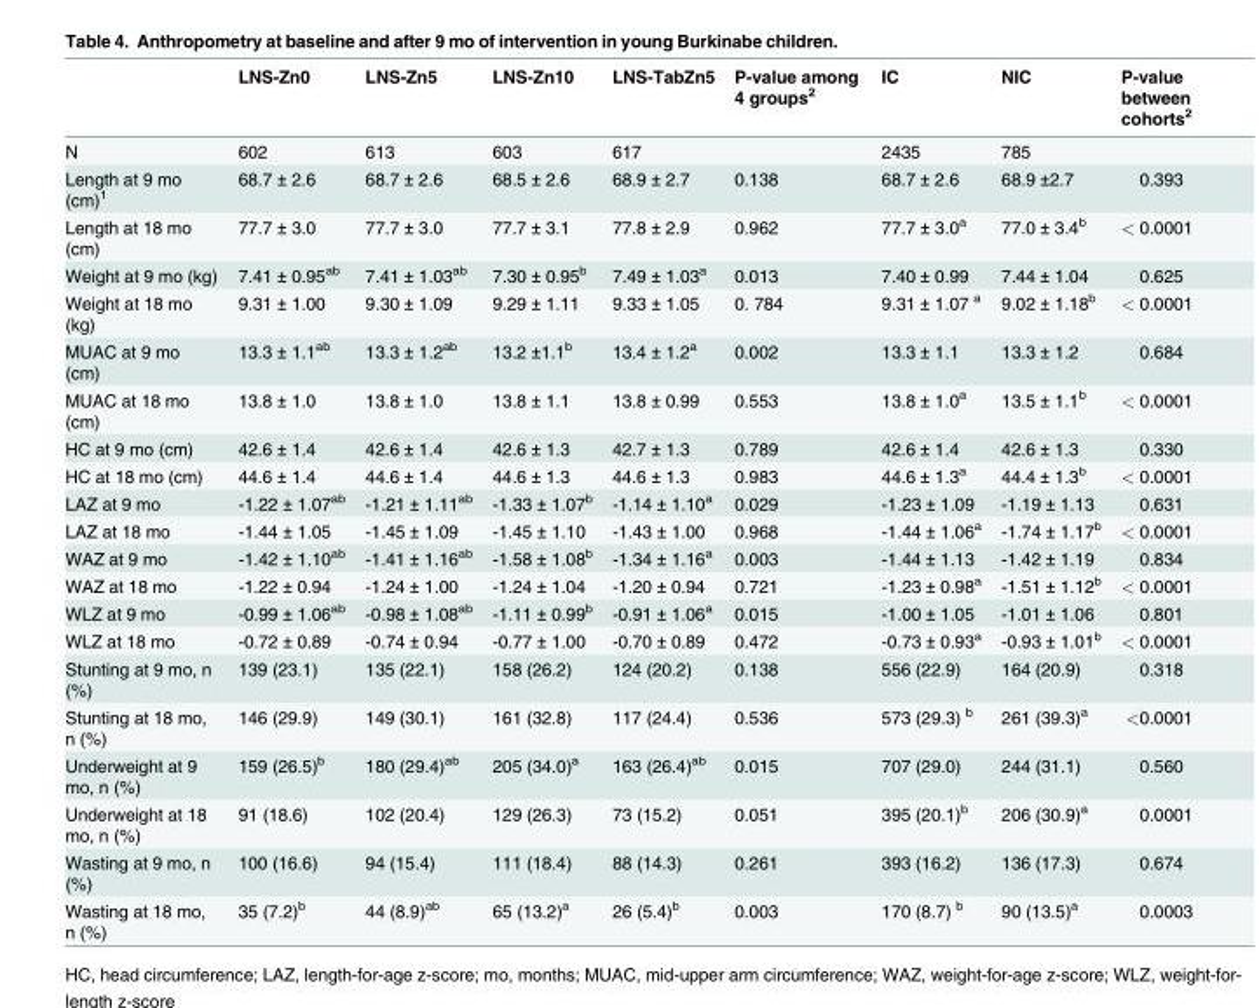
<table><thead><tr><td></td><td>LNS-Zn0</td><td>LNS-Zn5</td><td>LNS-Zn10</td><td>LNS-TabZn5</td><td>P-value among 4 groups<sup>2</sup></td><td>IC</td><td>NIC</td><td>P-value between cohorts<sup>2</sup></td></tr></thead><tbody><tr><td>N</td><td>602</td><td>613</td><td>603</td><td>617</td><td></td><td>2435</td><td>785</td><td></td></tr><tr><td>Length at 9 mo (cm)<sup>1</sup></td><td>68.7 ± 2.6</td><td>68.7 ± 2.6</td><td>68.5 ± 2.6</td><td>68.9 ± 2.7</td><td>0.138</td><td>68.7 ± 2.6</td><td>68.9 ±2.7</td><td>0.393</td></tr><tr><td>Length at 18 mo (cm)</td><td>77.7 ± 3.0</td><td>77.7 ± 3.0</td><td>77.7 ± 3.1</td><td>77.8 ± 2.9</td><td>0.962</td><td>77.7 ± 3.0<sup>a</sup></td><td>77.0 ± 3.4<sup>b</sup></td><td>&lt; 0.0001</td></tr><tr><td>Weight at 9 mo (kg)</td><td>7.41 ± 0.95<sup>ab</sup></td><td>7.41 ± 1.03<sup>ab</sup></td><td>7.30 ± 0.95<sup>b</sup></td><td>7.49 ± 1.03<sup>a</sup></td><td>0.013</td><td>7.40 ± 0.99</td><td>7.44 ± 1.04</td><td>0.625</td></tr><tr><td>Weight at 18 mo (kg)</td><td>9.31 ± 1.00</td><td>9.30 ± 1.09</td><td>9.29 ± 1.11</td><td>9.33 ± 1.05</td><td>0. 784</td><td>9.31 ± 1.07 <sup>a</sup></td><td>9.02 ± 1.18<sup>b</sup></td><td>&lt; 0.0001</td></tr><tr><td>MUAC at 9 mo (cm)</td><td>13.3 ± 1.1<sup>ab</sup></td><td>13.3 ± 1.2<sup>ab</sup></td><td>13.2 ±1.1<sup>b</sup></td><td>13.4 ± 1.2<sup>a</sup></td><td>0.002</td><td>13.3 ± 1.1</td><td>13.3 ± 1.2</td><td>0.684</td></tr><tr><td>MUAC at 18 mo (cm)</td><td>13.8 ± 1.0</td><td>13.8 ± 1.0</td><td>13.8 ± 1.1</td><td>13.8 ± 0.99</td><td>0.553</td><td>13.8 ± 1.0<sup>a</sup></td><td>13.5 ± 1.1<sup>b</sup></td><td>&lt; 0.0001</td></tr><tr><td>HC at 9 mo (cm)</td><td>42.6 ± 1.4</td><td>42.6 ± 1.4</td><td>42.6 ± 1.3</td><td>42.7 ± 1.3</td><td>0.789</td><td>42.6 ± 1.4</td><td>42.6 ± 1.3</td><td>0.330</td></tr><tr><td>HC at 18 mo (cm)</td><td>44.6 ± 1.4</td><td>44.6 ± 1.4</td><td>44.6 ± 1.3</td><td>44.6 ± 1.3</td><td>0.983</td><td>44.6 ± 1.3<sup>a</sup></td><td>44.4 ± 1.3<sup>b</sup></td><td>&lt; 0.0001</td></tr><tr><td>LAZ at 9 mo</td><td>-1.22 ± 1.07<sup>ab</sup></td><td>-1.21 ± 1.11<sup>ab</sup></td><td>-1.33 ± 1.07<sup>b</sup></td><td>-1.14 ± 1.10<sup>a</sup></td><td>0.029</td><td>-1.23 ± 1.09</td><td>-1.19 ± 1.13</td><td>0.631</td></tr><tr><td>LAZ at 18 mo</td><td>-1.44 ± 1.05</td><td>-1.45 ± 1.09</td><td>-1.45 ± 1.10</td><td>-1.43 ± 1.00</td><td>0.968</td><td>-1.44 ± 1.06<sup>a</sup></td><td>-1.74 ± 1.17<sup>b</sup></td><td>&lt; 0.0001</td></tr><tr><td>WAZ at 9 mo</td><td>-1.42 ± 1.10<sup>ab</sup></td><td>-1.41 ± 1.16<sup>ab</sup></td><td>-1.58 ± 1.08<sup>b</sup></td><td>-1.34 ± 1.16<sup>a</sup></td><td>0.003</td><td>-1.44 ± 1.13</td><td>-1.42 ± 1.19</td><td>0.834</td></tr><tr><td>WAZ at 18 mo</td><td>-1.22 ± 0.94</td><td>-1.24 ± 1.00</td><td>-1.24 ± 1.04</td><td>-1.20 ± 0.94</td><td>0.721</td><td>-1.23 ± 0.98<sup>a</sup></td><td>-1.51 ± 1.12<sup>b</sup></td><td>&lt; 0.0001</td></tr><tr><td>WLZ at 9 mo</td><td>-0.99 ± 1.06<sup>ab</sup></td><td>-0.98 ± 1.08<sup>ab</sup></td><td>-1.11 ± 0.99<sup>b</sup></td><td>-0.91 ± 1.06<sup>a</sup></td><td>0.015</td><td>-1.00 ± 1.05</td><td>-1.01 ± 1.06</td><td>0.801</td></tr><tr><td>WLZ at 18 mo</td><td>-0.72 ± 0.89</td><td>-0.74 ± 0.94</td><td>-0.77 ± 1.00</td><td>-0.70 ± 0.89</td><td>0.472</td><td>-0.73 ± 0.93<sup>a</sup></td><td>-0.93 ± 1.01<sup>b</sup></td><td>&lt; 0.0001</td></tr><tr><td>Stunting at 9 mo, n (%)</td><td>139 (23.1)</td><td>135 (22.1)</td><td>158 (26.2)</td><td>124 (20.2)</td><td>0.138</td><td>556 (22.9)</td><td>164 (20.9)</td><td>0.318</td></tr><tr><td>Stunting at 18 mo, n (%)</td><td>146 (29.9)</td><td>149 (30.1)</td><td>161 (32.8)</td><td>117 (24.4)</td><td>0.536</td><td>573 (29.3) <sup>b</sup></td><td>261 (39.3)<sup>a</sup></td><td>&lt;0.0001</td></tr><tr><td>Underweight at 9 mo, n (%)</td><td>159 (26.5)<sup>b</sup></td><td>180 (29.4)<sup>ab</sup></td><td>205 (34.0)<sup>a</sup></td><td>163 (26.4)<sup>ab</sup></td><td>0.015</td><td>707 (29.0)</td><td>244 (31.1)</td><td>0.560</td></tr><tr><td>Underweight at 18 mo, n (%)</td><td>91 (18.6)</td><td>102 (20.4)</td><td>129 (26.3)</td><td>73 (15.2)</td><td>0.051</td><td>395 (20.1)<sup>b</sup></td><td>206 (30.9)<sup>a</sup></td><td>0.0001</td></tr><tr><td>Wasting at 9 mo, n (%)</td><td>100 (16.6)</td><td>94 (15.4)</td><td>111 (18.4)</td><td>88 (14.3)</td><td>0.261</td><td>393 (16.2)</td><td>136 (17.3)</td><td>0.674</td></tr><tr><td>Wasting at 18 mo, n (%)</td><td>35 (7.2)<sup>b</sup></td><td>44 (8.9)<sup>ab</sup></td><td>65 (13.2)<sup>a</sup></td><td>26 (5.4)<sup>b</sup></td><td>0.003</td><td>170 (8.7) <sup>b</sup></td><td>90 (13.5)<sup>a</sup></td><td>0.0003</td></tr></tbody></table>